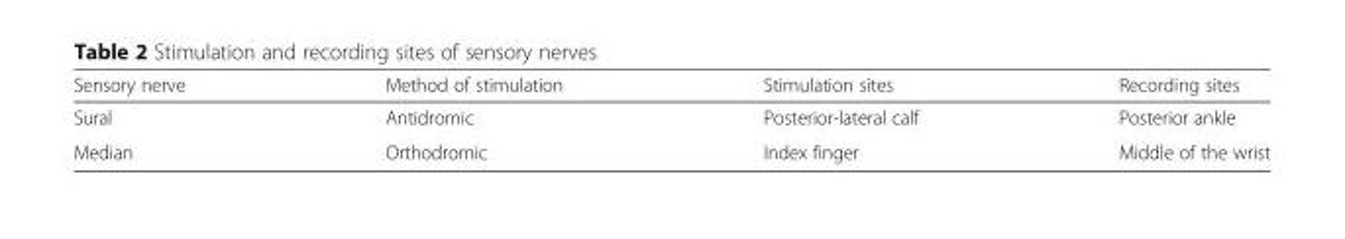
<table><thead><tr><td>Sensory nerve</td><td>Method of stimulation</td><td>Stimulation sites</td><td>Recording sites</td></tr></thead><tbody><tr><td>Sural</td><td>Antidromic</td><td>Posterior-lateral calf</td><td>Posterior ankle</td></tr><tr><td>Median</td><td>Orthodromic</td><td>Index finger</td><td>Middle of the wrist</td></tr></tbody></table>